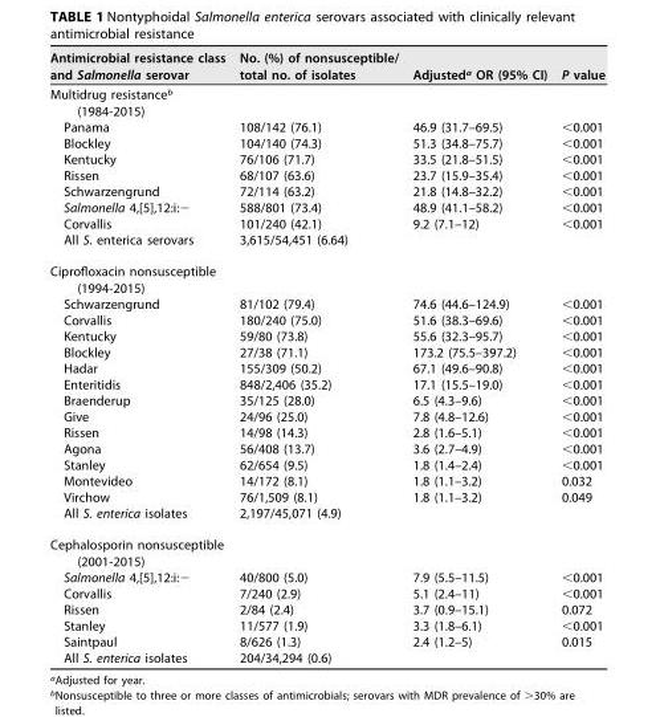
<table><thead><tr><td>Antimicrobial resistance class and Salmonella serovar</td><td>No. (%) of nonsusceptible/ total no. of isolates</td><td>Adjusted<sup>a</sup> OR (95% CI)</td><td>P value</td></tr></thead><tbody><tr><td colspan="4">Multidrug resistance<sup>b</sup> (1984-2015)</td></tr><tr><td>Panama</td><td>108/142 (76.1)</td><td>46.9 (31.7–69.5)</td><td>&lt;0.001</td></tr><tr><td>Blockley</td><td>104/140 (74.3)</td><td>51.3 (34.8–75.7)</td><td>&lt;0.001</td></tr><tr><td>Kentucky</td><td>76/106 (71.7)</td><td>33.5 (21.8–51.5)</td><td>&lt;0.001</td></tr><tr><td>Rissen</td><td>68/107 (63.6)</td><td>23.7 (15.9–35.4)</td><td>&lt;0.001</td></tr><tr><td>Schwarzengrund</td><td>72/114 (63.2)</td><td>21.8 (14.8–32.2)</td><td>&lt;0.001</td></tr><tr><td>Salmonella 4,[5],12:i:−</td><td>588/801 (73.4)</td><td>48.9 (41.1–58.2)</td><td>&lt;0.001</td></tr><tr><td>Corvallis</td><td>101/240 (42.1)</td><td>9.2 (7.1–12)</td><td>&lt;0.001</td></tr><tr><td>All S. enterica serovars</td><td>3,615/54,451 (6.64)</td><td></td><td></td></tr><tr><td colspan="4">Ciprofloxacin nonsusceptible (1994-2015)</td></tr><tr><td>Schwarzengrund</td><td>81/102 (79.4)</td><td>74.6 (44.6–124.9)</td><td>&lt;0.001</td></tr><tr><td>Corvallis</td><td>180/240 (75.0)</td><td>51.6 (38.3–69.6)</td><td>&lt;0.001</td></tr><tr><td>Kentucky</td><td>59/80 (73.8)</td><td>55.6 (32.3–95.7)</td><td>&lt;0.001</td></tr><tr><td>Blockley</td><td>27/38 (71.1)</td><td>173.2 (75.5–397.2)</td><td>&lt;0.001</td></tr><tr><td>Hadar</td><td>155/309 (50.2)</td><td>67.1 (49.6–90.8)</td><td>&lt;0.001</td></tr><tr><td>Enteritidis</td><td>848/2,406 (35.2)</td><td>17.1 (15.5–19.0)</td><td>&lt;0.001</td></tr><tr><td>Braenderup</td><td>35/125 (28.0)</td><td>6.5 (4.3–9.6)</td><td>&lt;0.001</td></tr><tr><td>Give</td><td>24/96 (25.0)</td><td>7.8 (4.8–12.6)</td><td>&lt;0.001</td></tr><tr><td>Rissen</td><td>14/98 (14.3)</td><td>2.8 (1.6–5.1)</td><td>&lt;0.001</td></tr><tr><td>Agona</td><td>56/408 (13.7)</td><td>3.6 (2.7–4.9)</td><td>&lt;0.001</td></tr><tr><td>Stanley</td><td>62/654 (9.5)</td><td>1.8 (1.4–2.4)</td><td>&lt;0.001</td></tr><tr><td>Montevideo</td><td>14/172 (8.1)</td><td>1.8 (1.1–3.2)</td><td>0.032</td></tr><tr><td>Virchow</td><td>76/1,509 (8.1)</td><td>1.8 (1.1–3.2)</td><td>0.049</td></tr><tr><td>All S. enterica isolates</td><td>2,197/45,071 (4.9)</td><td></td><td></td></tr><tr><td colspan="4">Cephalosporin nonsusceptible (2001-2015)</td></tr><tr><td>Salmonella 4,[5],12:i:−</td><td>40/800 (5.0)</td><td>7.9 (5.5–11.5)</td><td>&lt;0.001</td></tr><tr><td>Corvallis</td><td>7/240 (2.9)</td><td>5.1 (2.4–11)</td><td>&lt;0.001</td></tr><tr><td>Rissen</td><td>2/84 (2.4)</td><td>3.7 (0.9–15.1)</td><td>0.072</td></tr><tr><td>Stanley</td><td>11/577 (1.9)</td><td>3.3 (1.8–6.1)</td><td>&lt;0.001</td></tr><tr><td>Saintpaul</td><td>8/626 (1.3)</td><td>2.4 (1.2–5)</td><td>0.015</td></tr><tr><td>All S. enterica isolates</td><td>204/34,294 (0.6)</td><td></td><td></td></tr></tbody></table>